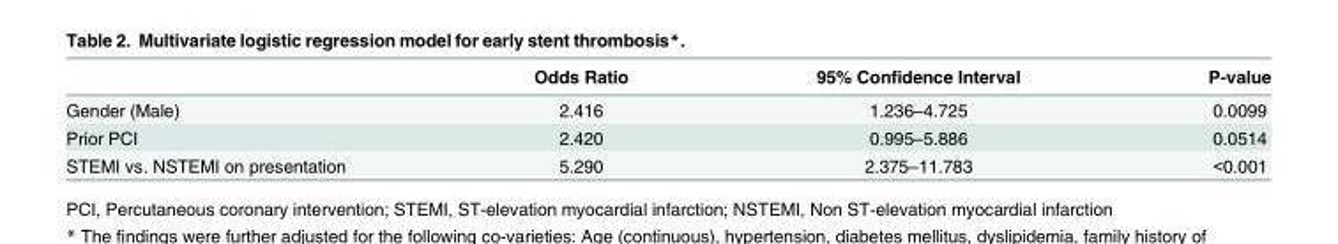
<table><thead><tr><td></td><td>Odds Ratio</td><td>95% Confidence Interval</td><td>P-value</td></tr></thead><tbody><tr><td>Gender (Male)</td><td>2.416</td><td>1.236–4.725</td><td>0.0099</td></tr><tr><td>Prior PCI</td><td>2.420</td><td>0.995–5.886</td><td>0.0514</td></tr><tr><td>STEMI vs. NSTEMI on presentation</td><td>5.290</td><td>2.375–11.783</td><td>&lt;0.001</td></tr></tbody></table>